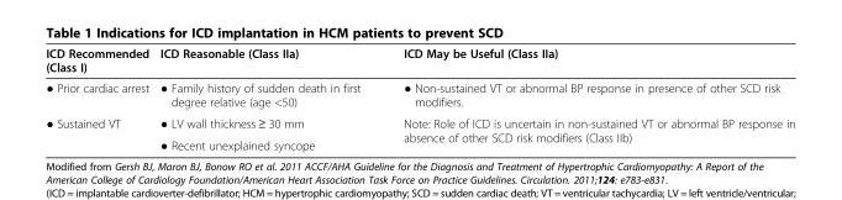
<table><thead><tr><td>ICD Recommended (Class I)</td><td>ICD Reasonable (Class IIa)</td><td>ICD May be Useful (Class IIa)</td></tr></thead><tbody><tr><td>● Prior cardiac arrest</td><td>● Family history of sudden death in first degree relative (age &lt;50)</td><td>● Non-sustained VT or abnormal BP response in presence of other SCD risk modifiers.</td></tr><tr><td rowspan="2">● Sustained VT</td><td>● LV wall thickness ≥ 30 mm</td><td rowspan="2">Note: Role of ICD is uncertain in non-sustained VT or abnormal BP response in absence of other SCD risk modifiers (Class IIb)</td></tr><tr><td>● Recent unexplained syncope</td></tr></tbody></table>